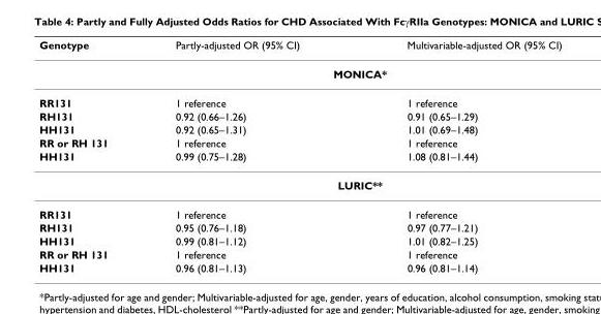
<table><thead><tr><td>Genotype</td><td>Partly-adjusted OR (95% CI)</td><td>Multivariable-adjusted OR (95% CI)</td></tr></thead><tbody><tr><td colspan="3">MONICA*</td></tr><tr><td>RR131</td><td>1 reference</td><td>1 reference</td></tr><tr><td>RH131</td><td>0.92 (0.66–1.26)</td><td>0.91 (0.65–1.29)</td></tr><tr><td>HH131</td><td>0.92 (0.65–1.31)</td><td>1.01 (0.69–1.48)</td></tr><tr><td>RR or RH 131</td><td>1 reference</td><td>1 reference</td></tr><tr><td>HH131</td><td>0.99 (0.75–1.28)</td><td>1.08 (0.81–1.44)</td></tr><tr><td colspan="3">LURIC**</td></tr><tr><td>RR131</td><td>1 reference</td><td>1 reference</td></tr><tr><td>RH131</td><td>0.95 (0.76–1.18)</td><td>0.97 (0.77–1.21)</td></tr><tr><td>HH131</td><td>0.99 (0.81–1.12)</td><td>1.01 (0.82–1.25)</td></tr><tr><td>RR or RH 131</td><td>1 reference</td><td>1 reference</td></tr><tr><td>HH131</td><td>0.96 (0.81–1.13)</td><td>0.96 (0.81–1.14)</td></tr></tbody></table>